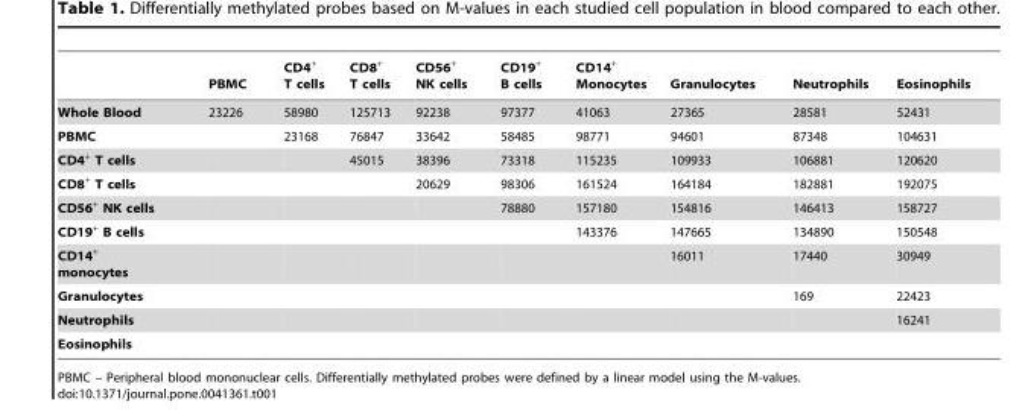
<table><thead><tr><td></td><td>PBMC</td><td>CD4<sup>+</sup> T cells</td><td>CD8<sup>+</sup> T cells</td><td>CD56<sup>+</sup> NK cells</td><td>CD19<sup>+</sup> B cells</td><td>CD14<sup>+</sup> Monocytes</td><td>Granulocytes</td><td>Neutrophils</td><td>Eosinophils</td></tr></thead><tbody><tr><td>Whole Blood</td><td>23226</td><td>58980</td><td>125713</td><td>92238</td><td>97377</td><td>41063</td><td>27365</td><td>28581</td><td>52431</td></tr><tr><td>PBMC</td><td></td><td>23168</td><td>76847</td><td>33642</td><td>58485</td><td>98771</td><td>94601</td><td>87348</td><td>104631</td></tr><tr><td>CD4<sup>+</sup> T cells</td><td></td><td></td><td>45015</td><td>38396</td><td>73318</td><td>115235</td><td>109933</td><td>106881</td><td>120620</td></tr><tr><td>CD8<sup>+</sup> T cells</td><td></td><td></td><td></td><td>20629</td><td>98306</td><td>161524</td><td>164184</td><td>182881</td><td>192075</td></tr><tr><td>CD56<sup>+</sup> NK cells</td><td></td><td></td><td></td><td></td><td>78880</td><td>157180</td><td>154816</td><td>146413</td><td>158727</td></tr><tr><td>CD19<sup>+</sup> B cells</td><td></td><td></td><td></td><td></td><td></td><td>143376</td><td>147665</td><td>134890</td><td>150548</td></tr><tr><td>CD14<sup>+</sup> monocytes</td><td></td><td></td><td></td><td></td><td></td><td></td><td>16011</td><td>17440</td><td>30949</td></tr><tr><td>Granulocytes</td><td></td><td></td><td></td><td></td><td></td><td></td><td></td><td>169</td><td>22423</td></tr><tr><td>Neutrophils</td><td></td><td></td><td></td><td></td><td></td><td></td><td></td><td></td><td>16241</td></tr><tr><td>Eosinophils</td><td></td><td></td><td></td><td></td><td></td><td></td><td></td><td></td><td></td></tr></tbody></table>